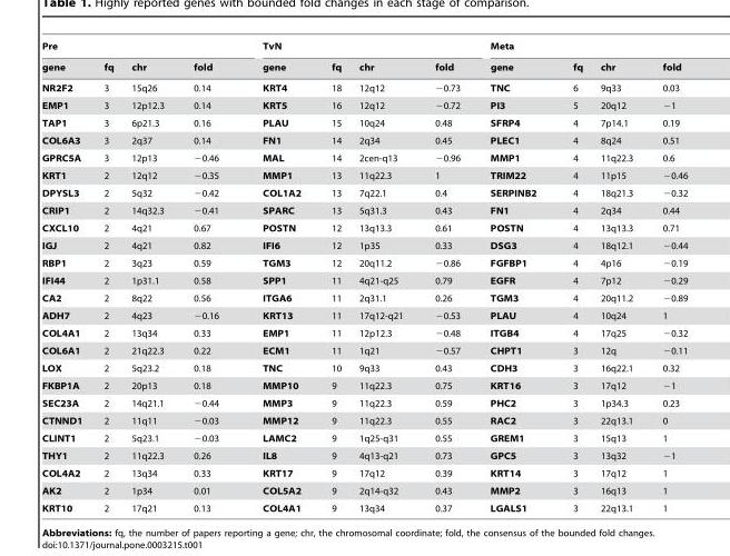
<table><thead><tr><td colspan="4">Pre</td><td colspan="4">TvN</td><td colspan="4">Meta</td></tr><tr><td>gene</td><td>fq</td><td>chr</td><td>fold</td><td>gene</td><td>fq</td><td>chr</td><td>fold</td><td>gene</td><td>fq</td><td>chr</td><td>fold</td></tr></thead><tbody><tr><td>NR2F2</td><td>3</td><td>15q26</td><td>0.14</td><td>KRT4</td><td>18</td><td>12q12</td><td>−0.73</td><td>TNC</td><td>6</td><td>9q33</td><td>0.03</td></tr><tr><td>EMP1</td><td>3</td><td>12p12.3</td><td>0.14</td><td>KRT5</td><td>16</td><td>12q12</td><td>−0.72</td><td>PI3</td><td>5</td><td>20q12</td><td>−1</td></tr><tr><td>TAP1</td><td>3</td><td>6p21.3</td><td>0.16</td><td>PLAU</td><td>15</td><td>10q24</td><td>0.48</td><td>SFRP4</td><td>4</td><td>7p14.1</td><td>0.19</td></tr><tr><td>COL6A3</td><td>3</td><td>2q37</td><td>0.14</td><td>FN1</td><td>14</td><td>2q34</td><td>0.45</td><td>PLEC1</td><td>4</td><td>8q24</td><td>0.51</td></tr><tr><td>GPRC5A</td><td>3</td><td>12p13</td><td>−0.46</td><td>MAL</td><td>14</td><td>2cen-q13</td><td>−0.96</td><td>MMP1</td><td>4</td><td>11q22.3</td><td>0.6</td></tr><tr><td>KRT1</td><td>2</td><td>12q12</td><td>−0.35</td><td>MMP1</td><td>13</td><td>11q22.3</td><td>1</td><td>TRIM22</td><td>4</td><td>11p15</td><td>−0.46</td></tr><tr><td>DPYSL3</td><td>2</td><td>5q32</td><td>−0.42</td><td>COL1A2</td><td>13</td><td>7q22.1</td><td>0.4</td><td>SERPINB2</td><td>4</td><td>18q21.3</td><td>−0.32</td></tr><tr><td>CRIP1</td><td>2</td><td>14q32.3</td><td>−0.41</td><td>SPARC</td><td>13</td><td>5q31.3</td><td>0.43</td><td>FN1</td><td>4</td><td>2q34</td><td>0.44</td></tr><tr><td>CXCL10</td><td>2</td><td>4q21</td><td>0.67</td><td>POSTN</td><td>12</td><td>13q13.3</td><td>0.61</td><td>POSTN</td><td>4</td><td>13q13.3</td><td>0.71</td></tr><tr><td>IGJ</td><td>2</td><td>4q21</td><td>0.82</td><td>IFI6</td><td>12</td><td>1p35</td><td>0.33</td><td>DSG3</td><td>4</td><td>18q12.1</td><td>−0.44</td></tr><tr><td>RBP1</td><td>2</td><td>3q23</td><td>0.59</td><td>TGM3</td><td>12</td><td>20q11.2</td><td>−0.86</td><td>FGFBP1</td><td>4</td><td>4p16</td><td>−0.19</td></tr><tr><td>IFI44</td><td>2</td><td>1p31.1</td><td>0.58</td><td>SPP1</td><td>11</td><td>4q21-q25</td><td>0.79</td><td>EGFR</td><td>4</td><td>7p12</td><td>−0.29</td></tr><tr><td>CA2</td><td>2</td><td>8q22</td><td>0.56</td><td>ITGA6</td><td>11</td><td>2q31.1</td><td>0.26</td><td>TGM3</td><td>4</td><td>20q11.2</td><td>−0.89</td></tr><tr><td>ADH7</td><td>2</td><td>4q23</td><td>−0.16</td><td>KRT13</td><td>11</td><td>17q12-q21</td><td>−0.53</td><td>PLAU</td><td>4</td><td>10q24</td><td>1</td></tr><tr><td>COL4A1</td><td>2</td><td>13q34</td><td>0.33</td><td>EMP1</td><td>11</td><td>12p12.3</td><td>−0.48</td><td>ITGB4</td><td>4</td><td>17q25</td><td>−0.32</td></tr><tr><td>COL6A1</td><td>2</td><td>21q22.3</td><td>0.22</td><td>ECM1</td><td>11</td><td>1q21</td><td>−0.57</td><td>CHPT1</td><td>3</td><td>12q</td><td>−0.11</td></tr><tr><td>LOX</td><td>2</td><td>5q23.2</td><td>0.18</td><td>TNC</td><td>10</td><td>9q33</td><td>0.43</td><td>CDH3</td><td>3</td><td>16q22.1</td><td>0.32</td></tr><tr><td>FKBP1A</td><td>2</td><td>20p13</td><td>0.18</td><td>MMP10</td><td>9</td><td>11q22.3</td><td>0.75</td><td>KRT16</td><td>3</td><td>17q12</td><td>−1</td></tr><tr><td>SEC23A</td><td>2</td><td>14q21.1</td><td>−0.44</td><td>MMP3</td><td>9</td><td>11q22.3</td><td>0.59</td><td>PHC2</td><td>3</td><td>1p34.3</td><td>0.23</td></tr><tr><td>CTNND1</td><td>2</td><td>11q11</td><td>−0.03</td><td>MMP12</td><td>9</td><td>11q22.3</td><td>0.55</td><td>RAC2</td><td>3</td><td>22q13.1</td><td>0</td></tr><tr><td>CLINT1</td><td>2</td><td>5q23.1</td><td>−0.03</td><td>LAMC2</td><td>9</td><td>1q25-q31</td><td>0.55</td><td>GREM1</td><td>3</td><td>15q13</td><td>1</td></tr><tr><td>THY1</td><td>2</td><td>11q22.3</td><td>0.26</td><td>IL8</td><td>9</td><td>4q13-q21</td><td>0.73</td><td>GPC5</td><td>3</td><td>13q32</td><td>−1</td></tr><tr><td>COL4A2</td><td>2</td><td>13q34</td><td>0.33</td><td>KRT17</td><td>9</td><td>17q12</td><td>0.39</td><td>KRT14</td><td>3</td><td>17q12</td><td>1</td></tr><tr><td>AK2</td><td>2</td><td>1p34</td><td>0.01</td><td>COL5A2</td><td>9</td><td>2q14-q32</td><td>0.43</td><td>MMP2</td><td>3</td><td>16q13</td><td>1</td></tr><tr><td>KRT10</td><td>2</td><td>17q21</td><td>0.13</td><td>COL4A1</td><td>9</td><td>13q34</td><td>0.37</td><td>LGALS1</td><td>3</td><td>22q13.1</td><td>1</td></tr></tbody></table>